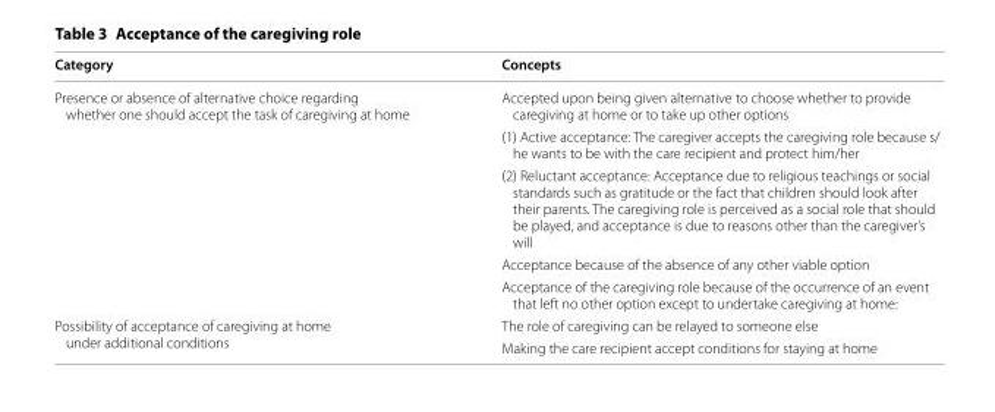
<table><thead><tr><td>Category</td><td>Concepts</td></tr></thead><tbody><tr><td rowspan="5">Presence or absence of alternative choice regarding whether one should accept the task of caregiving at home</td><td>Accepted upon being given alternative to choose whether to provide caregiving at home or to take up other options</td></tr><tr><td>(1) Active acceptance: The caregiver accepts the caregiving role because s/ he wants to be with the care recipient and protect him/her</td></tr><tr><td>(2) Reluctant acceptance: Acceptance due to religious teachings or social standards such as gratitude or the fact that children should look after their parents. The caregiving role is perceived as a social role that should be played, and acceptance is due to reasons other than the caregiver’s will</td></tr><tr><td>Acceptance because of the absence of any other viable option</td></tr><tr><td>Acceptance of the caregiving role because of the occurrence of an event that left no other option except to undertake caregiving at home:</td></tr><tr><td rowspan="2">Possibility of acceptance of caregiving at home under additional conditions</td><td>The role of caregiving can be relayed to someone else</td></tr><tr><td>Making the care recipient accept conditions for staying at home</td></tr></tbody></table>